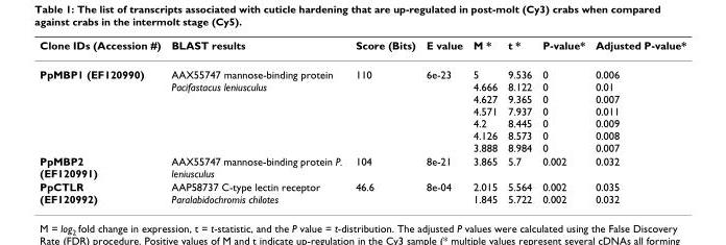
<table><thead><tr><td>Clone IDs (Accession #)</td><td>BLAST results</td><td>Score (Bits)</td><td>E value</td><td>M *</td><td>t *</td><td>P-value*</td><td>Adjusted P-value*</td></tr></thead><tbody><tr><td>PpMBP1 (EF120990)</td><td>AAX55747 mannose-binding protein Pacifastacus leniusculus</td><td>110</td><td>6e-23</td><td>5 4.666 4.627 4.571 4.2 4.126 3.888</td><td>9.536 8.122 9.365 7.937 8.445 8.573 8.984</td><td>0 0 0 0 0 0 0</td><td>0.006 0.01 0.007 0.011 0.009 0.008 0.007</td></tr><tr><td>PpMBP2 (EF120991)</td><td>AAX55747 mannose-binding protein P. leniusculus</td><td>104</td><td>8e-21</td><td>3.865</td><td>5.7</td><td>0.002</td><td>0.032</td></tr><tr><td>PpCTLR (EF120992)</td><td>AAP58737 C-type lectin receptor Paralabidochromis chilotes</td><td>46.6</td><td>8e-04</td><td>2.015 1.845</td><td>5.564 5.722</td><td>0.002 0.002</td><td>0.035 0.032</td></tr></tbody></table>